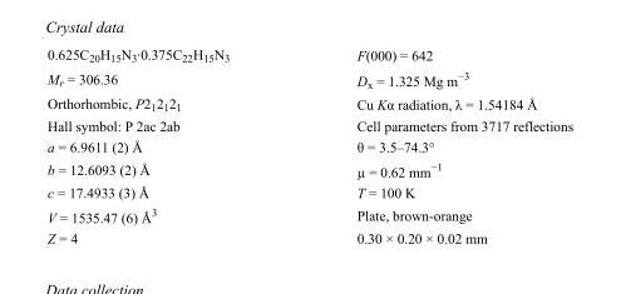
<table><tbody><tr><td>0.625C<sub>20</sub>H<sub>15</sub>N<sub>3</sub>·0.375C<sub>22</sub>H<sub>15</sub>N<sub>3</sub></td><td>F(000) = 642</td></tr><tr><td>M<sub>r</sub> = 306.36</td><td>D<sub>x</sub> = 1.325 Mg m<sup>−3</sup></td></tr><tr><td>Orthorhombic, P2<sub>1</sub>2<sub>1</sub>2<sub>1</sub></td><td>Cu Kα radiation, λ = 1.54184 Å</td></tr><tr><td>Hall symbol: P 2ac 2ab</td><td>Cell parameters from 3717 reflections</td></tr><tr><td>a = 6.9611 (2) Å</td><td>θ = 3.5–74.3°</td></tr><tr><td>b = 12.6093 (2) Å</td><td>µ = 0.62 mm<sup>−1</sup></td></tr><tr><td>c = 17.4933 (3) Å</td><td>T = 100 K</td></tr><tr><td>V = 1535.47 (6) Å<sup>3</sup></td><td>Plate, brown-orange</td></tr><tr><td>Z = 4</td><td>0.30 × 0.20 × 0.02 mm</td></tr></tbody></table>